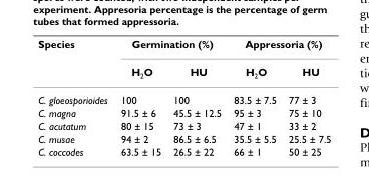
<table><thead><tr><td rowspan="2">Species</td><td colspan="2">Germination (%)</td><td colspan="2">Appressoria (%)</td></tr><tr><td>H<sub>2</sub>O</td><td>HU</td><td>H<sub>2</sub>O</td><td>HU</td></tr></thead><tbody><tr><td>C. gloeosporioides</td><td>100</td><td>100</td><td>83.5 ± 7.5</td><td>77 ± 3</td></tr><tr><td>C. magna</td><td>91.5 ± 6</td><td>45.5 ± 12.5</td><td>95 ± 3</td><td>75 ± 10</td></tr><tr><td>C. acutatum</td><td>80 ± 15</td><td>73 ± 3</td><td>47 ± 1</td><td>33 ± 2</td></tr><tr><td>C. musae</td><td>94 ± 2</td><td>86.5 ± 6.5</td><td>35.5 ± 5.5</td><td>25.5 ± 7.5</td></tr><tr><td>C. coccodes</td><td>63.5 ± 15</td><td>26.5 ± 22</td><td>66 ± 1</td><td>50 ± 25</td></tr></tbody></table>